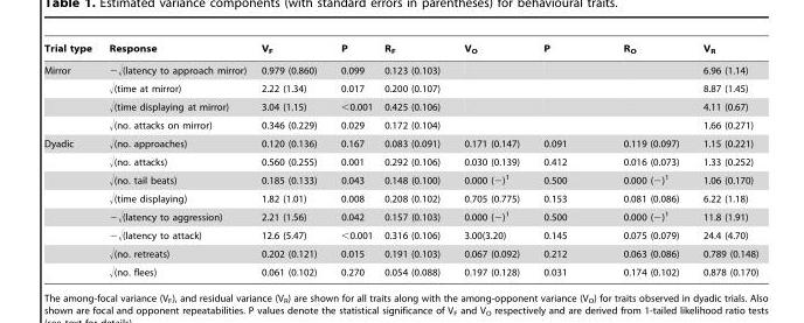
<table><thead><tr><td>Trial type</td><td>Response</td><td>V<sub>F</sub></td><td>P</td><td>R<sub>F</sub></td><td>V<sub>O</sub></td><td>P</td><td>R<sub>O</sub></td><td>V<sub>R</sub></td></tr></thead><tbody><tr><td rowspan="4">Mirror</td><td>−√(latency to approach mirror)</td><td>0.979 (0.860)</td><td>0.099</td><td>0.123 (0.103)</td><td></td><td></td><td></td><td>6.96 (1.14)</td></tr><tr><td>√(time at mirror)</td><td>2.22 (1.34)</td><td>0.017</td><td>0.200 (0.107)</td><td></td><td></td><td></td><td>8.87 (1.45)</td></tr><tr><td>√(time displaying at mirror)</td><td>3.04 (1.15)</td><td>&lt;0.001</td><td>0.425 (0.106)</td><td></td><td></td><td></td><td>4.11 (0.67)</td></tr><tr><td>√(no. attacks on mirror)</td><td>0.346 (0.229)</td><td>0.029</td><td>0.172 (0.104)</td><td></td><td></td><td></td><td>1.66 (0.271)</td></tr><tr><td rowspan="8">Dyadic</td><td>√(no. approaches)</td><td>0.120 (0.136)</td><td>0.167</td><td>0.083 (0.091)</td><td>0.171 (0.147)</td><td>0.091</td><td>0.119 (0.097)</td><td>1.15 (0.221)</td></tr><tr><td>√(no. attacks)</td><td>0.560 (0.255)</td><td>0.001</td><td>0.292 (0.106)</td><td>0.030 (0.139)</td><td>0.412</td><td>0.016 (0.073)</td><td>1.33 (0.252)</td></tr><tr><td>√(no. tail beats)</td><td>0.185 (0.133)</td><td>0.043</td><td>0.148 (0.100)</td><td>0.000 (−)<sup>1</sup></td><td>0.500</td><td>0.000 (−)<sup>1</sup></td><td>1.06 (0.170)</td></tr><tr><td>√(time displaying)</td><td>1.82 (1.01)</td><td>0.008</td><td>0.208 (0.102)</td><td>0.705 (0.775)</td><td>0.153</td><td>0.081 (0.086)</td><td>6.22 (1.18)</td></tr><tr><td>−√(latency to aggression)</td><td>2.21 (1.56)</td><td>0.042</td><td>0.157 (0.103)</td><td>0.000 (−)<sup>1</sup></td><td>0.500</td><td>0.000 (−)<sup>1</sup></td><td>11.8 (1.91)</td></tr><tr><td>−√(latency to attack)</td><td>12.6 (5.47)</td><td>&lt;0.001</td><td>0.316 (0.106)</td><td>3.00(3.20)</td><td>0.145</td><td>0.075 (0.079)</td><td>24.4 (4.70)</td></tr><tr><td>√(no. retreats)</td><td>0.202 (0.121)</td><td>0.015</td><td>0.191 (0.103)</td><td>0.067 (0.092)</td><td>0.212</td><td>0.063 (0.086)</td><td>0.789 (0.148)</td></tr><tr><td>√(no. flees)</td><td>0.061 (0.102)</td><td>0.270</td><td>0.054 (0.088)</td><td>0.197 (0.128)</td><td>0.031</td><td>0.174 (0.102)</td><td>0.878 (0.170)</td></tr></tbody></table>